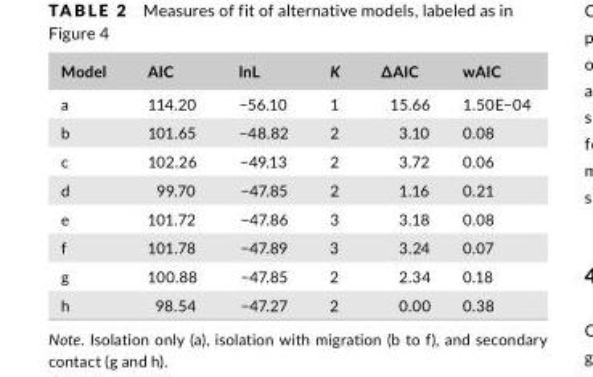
<table><thead><tr><td>Model</td><td>AIC</td><td>lnL</td><td>K</td><td>∆AIC</td><td>wAIC</td></tr></thead><tbody><tr><td>a</td><td>114.20</td><td>−56.10</td><td>1</td><td>15.66</td><td>1.50E−04</td></tr><tr><td>b</td><td>101.65</td><td>−48.82</td><td>2</td><td>3.10</td><td>0.08</td></tr><tr><td>c</td><td>102.26</td><td>−49.13</td><td>2</td><td>3.72</td><td>0.06</td></tr><tr><td>d</td><td>99.70</td><td>−47.85</td><td>2</td><td>1.16</td><td>0.21</td></tr><tr><td>e</td><td>101.72</td><td>−47.86</td><td>3</td><td>3.18</td><td>0.08</td></tr><tr><td>f</td><td>101.78</td><td>−47.89</td><td>3</td><td>3.24</td><td>0.07</td></tr><tr><td>g</td><td>100.88</td><td>−47.85</td><td>2</td><td>2.34</td><td>0.18</td></tr><tr><td>h</td><td>98.54</td><td>−47.27</td><td>2</td><td>0.00</td><td>0.38</td></tr></tbody></table>